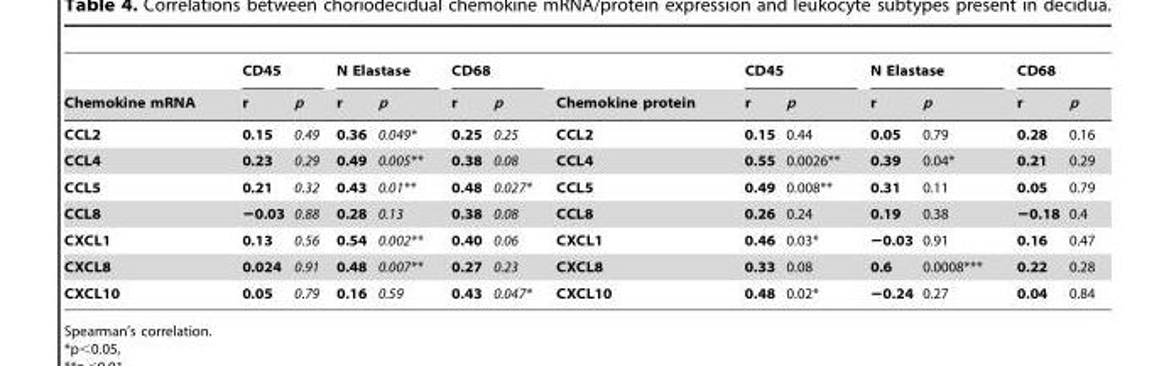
<table><thead><tr><td rowspan="2">Chemokine mRNA</td><td colspan="2">CD45</td><td colspan="2">N Elastase</td><td colspan="2">CD68</td><td rowspan="2">Chemokine protein</td><td colspan="2">CD45</td><td colspan="2">N Elastase</td><td colspan="2">CD68</td></tr><tr><td>r</td><td>p</td><td>r</td><td>p</td><td>r</td><td>p</td><td>r</td><td>p</td><td>r</td><td>p</td><td>r</td><td>p</td></tr></thead><tbody><tr><td>CCL2</td><td>0.15</td><td>0.49</td><td>0.36</td><td>0.049*</td><td>0.25</td><td>0.25</td><td>CCL2</td><td>0.15</td><td>0.44</td><td>0.05</td><td>0.79</td><td>0.28</td><td>0.16</td></tr><tr><td>CCL4</td><td>0.23</td><td>0.29</td><td>0.49</td><td>0.005**</td><td>0.38</td><td>0.08</td><td>CCL4</td><td>0.55</td><td>0.0026**</td><td>0.39</td><td>0.04*</td><td>0.21</td><td>0.29</td></tr><tr><td>CCL5</td><td>0.21</td><td>0.32</td><td>0.43</td><td>0.01**</td><td>0.48</td><td>0.027*</td><td>CCL5</td><td>0.49</td><td>0.008**</td><td>0.31</td><td>0.11</td><td>0.05</td><td>0.79</td></tr><tr><td>CCL8</td><td>−0.03</td><td>0.88</td><td>0.28</td><td>0.13</td><td>0.38</td><td>0.08</td><td>CCL8</td><td>0.26</td><td>0.24</td><td>0.19</td><td>0.38</td><td>−0.18</td><td>0.4</td></tr><tr><td>CXCL1</td><td>0.13</td><td>0.56</td><td>0.54</td><td>0.002**</td><td>0.40</td><td>0.06</td><td>CXCL1</td><td>0.46</td><td>0.03*</td><td>−0.03</td><td>0.91</td><td>0.16</td><td>0.47</td></tr><tr><td>CXCL8</td><td>0.024</td><td>0.91</td><td>0.48</td><td>0.007**</td><td>0.27</td><td>0.23</td><td>CXCL8</td><td>0.33</td><td>0.08</td><td>0.6</td><td>0.0008***</td><td>0.22</td><td>0.28</td></tr><tr><td>CXCL10</td><td>0.05</td><td>0.79</td><td>0.16</td><td>0.59</td><td>0.43</td><td>0.047*</td><td>CXCL10</td><td>0.48</td><td>0.02*</td><td>−0.24</td><td>0.27</td><td>0.04</td><td>0.84</td></tr></tbody></table>